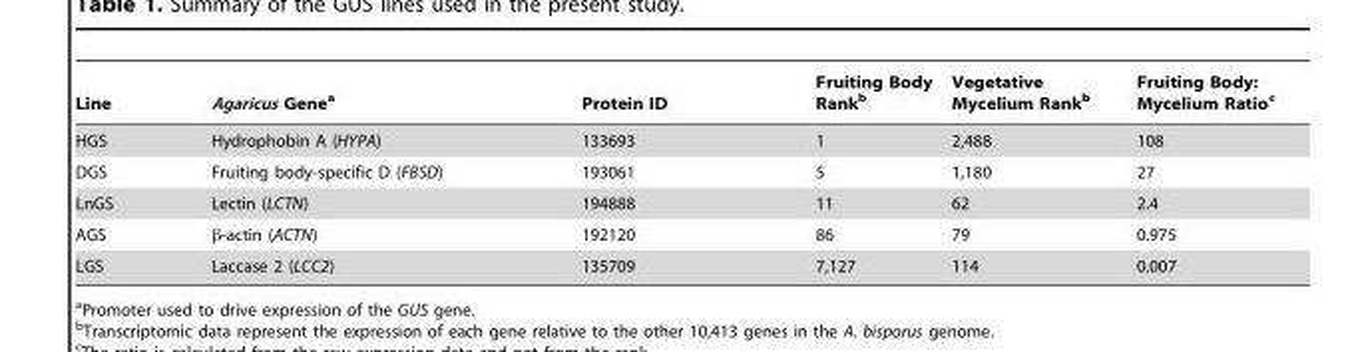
<table><thead><tr><td>Line</td><td>Agaricus Gene<sup>a</sup></td><td>Protein ID</td><td>Fruiting Body Rank<sup>b</sup></td><td>Vegetative Mycelium Rank<sup>b</sup></td><td>Fruiting Body: Mycelium Ratio<sup>c</sup></td></tr></thead><tbody><tr><td>HGS</td><td>Hydrophobin A (HYPA)</td><td>133693</td><td>1</td><td>2,488</td><td>108</td></tr><tr><td>DGS</td><td>Fruiting body-specific D (FBSD)</td><td>193061</td><td>5</td><td>1,180</td><td>27</td></tr><tr><td>LnGS</td><td>Lectin (LCTN)</td><td>194888</td><td>11</td><td>62</td><td>2.4</td></tr><tr><td>AGS</td><td>β-actin (ACTN)</td><td>192120</td><td>86</td><td>79</td><td>0.975</td></tr><tr><td>LGS</td><td>Laccase 2 (LCC2)</td><td>135709</td><td>7,127</td><td>114</td><td>0.007</td></tr></tbody></table>